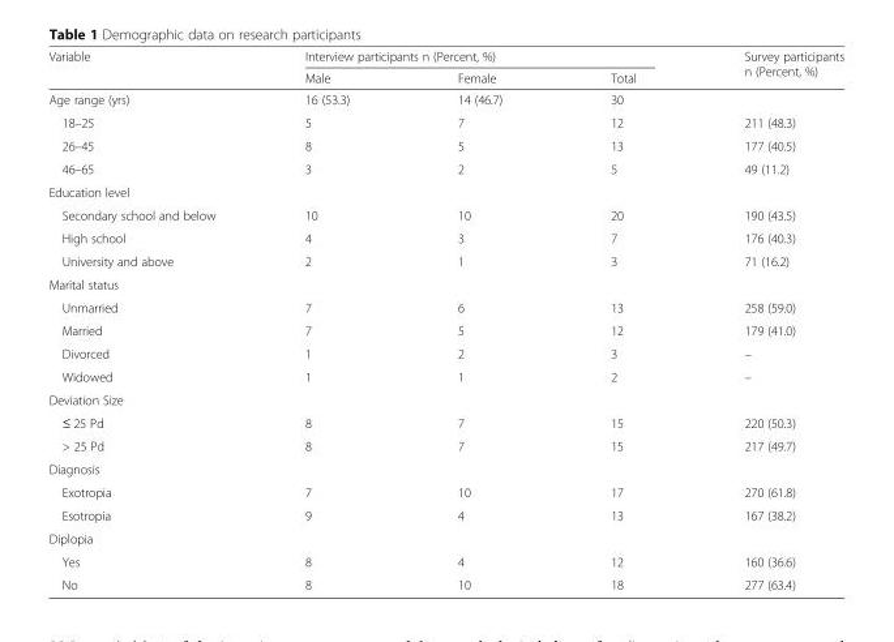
<table><thead><tr><td rowspan="2">Variable</td><td colspan="3">Interview participants n (Percent, %)</td><td rowspan="2">Survey participants n (Percent, %)</td></tr><tr><td>Male</td><td>Female</td><td>Total</td></tr></thead><tbody><tr><td>Age range (yrs)</td><td>16 (53.3)</td><td>14 (46.7)</td><td>30</td><td></td></tr><tr><td>18–25</td><td>5</td><td>7</td><td>12</td><td>211 (48.3)</td></tr><tr><td>26–45</td><td>8</td><td>5</td><td>13</td><td>177 (40.5)</td></tr><tr><td>46–65</td><td>3</td><td>2</td><td>5</td><td>49 (11.2)</td></tr><tr><td colspan="5">Education level</td></tr><tr><td>Secondary school and below</td><td>10</td><td>10</td><td>20</td><td>190 (43.5)</td></tr><tr><td>High school</td><td>4</td><td>3</td><td>7</td><td>176 (40.3)</td></tr><tr><td>University and above</td><td>2</td><td>1</td><td>3</td><td>71 (16.2)</td></tr><tr><td colspan="5">Marital status</td></tr><tr><td>Unmarried</td><td>7</td><td>6</td><td>13</td><td>258 (59.0)</td></tr><tr><td>Married</td><td>7</td><td>5</td><td>12</td><td>179 (41.0)</td></tr><tr><td>Divorced</td><td>1</td><td>2</td><td>3</td><td>–</td></tr><tr><td>Widowed</td><td>1</td><td>1</td><td>2</td><td>–</td></tr><tr><td colspan="5">Deviation Size</td></tr><tr><td>≤ 25 Pd</td><td>8</td><td>7</td><td>15</td><td>220 (50.3)</td></tr><tr><td>&gt; 25 Pd</td><td>8</td><td>7</td><td>15</td><td>217 (49.7)</td></tr><tr><td colspan="5">Diagnosis</td></tr><tr><td>Exotropia</td><td>7</td><td>10</td><td>17</td><td>270 (61.8)</td></tr><tr><td>Esotropia</td><td>9</td><td>4</td><td>13</td><td>167 (38.2)</td></tr><tr><td colspan="5">Diplopia</td></tr><tr><td>Yes</td><td>8</td><td>4</td><td>12</td><td>160 (36.6)</td></tr><tr><td>No</td><td>8</td><td>10</td><td>18</td><td>277 (63.4)</td></tr></tbody></table>